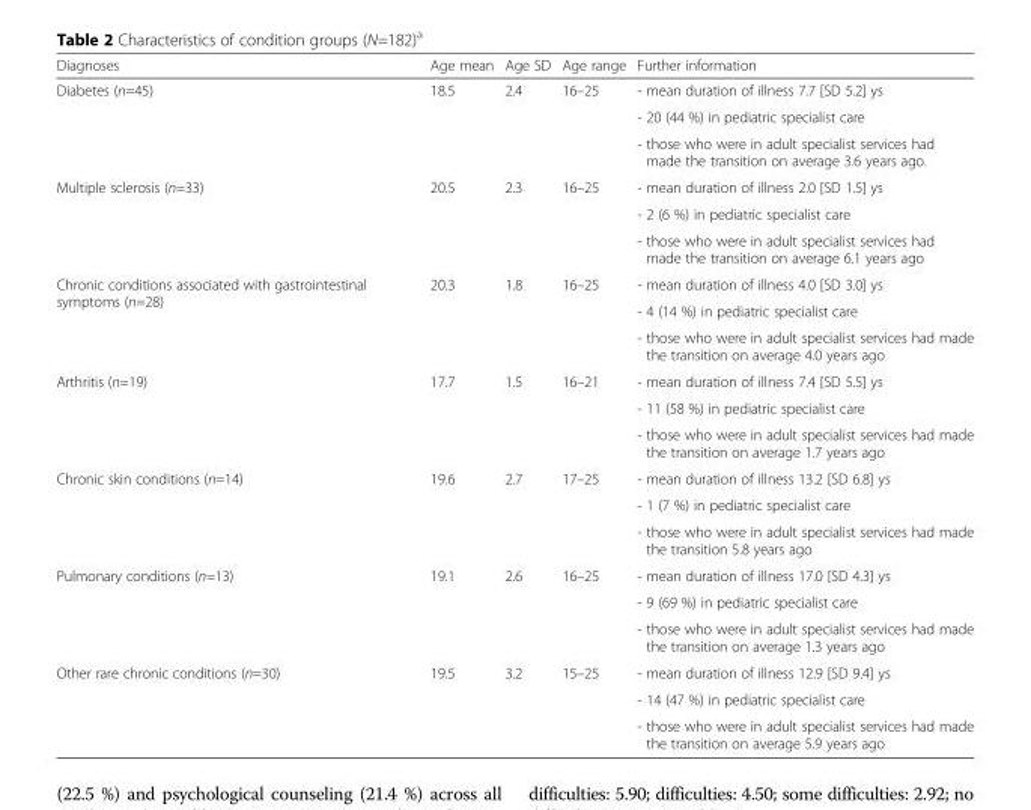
<table><thead><tr><td>Diagnoses</td><td>Age mean</td><td>Age SD</td><td>Age range</td><td>Further information</td></tr></thead><tbody><tr><td rowspan="3">Diabetes (n=45)</td><td rowspan="3">18.5</td><td rowspan="3">2.4</td><td rowspan="3">16–25</td><td>- mean duration of illness 7.7 [SD 5.2] ys</td></tr><tr><td>- 20 (44 %) in pediatric specialist care</td></tr><tr><td>- those who were in adult specialist services had made the transition on average 3.6 years ago.</td></tr><tr><td rowspan="3">Multiple sclerosis (n=33)</td><td rowspan="3">20.5</td><td rowspan="3">2.3</td><td rowspan="3">16–25</td><td>- mean duration of illness 2.0 [SD 1.5] ys</td></tr><tr><td>- 2 (6 %) in pediatric specialist care</td></tr><tr><td>- those who were in adult specialist services had made the transition on average 6.1 years ago</td></tr><tr><td rowspan="3">Chronic conditions associated with gastrointestinal symptoms (n=28)</td><td rowspan="3">20.3</td><td rowspan="3">1.8</td><td rowspan="3">16–25</td><td>- mean duration of illness 4.0 [SD 3.0] ys</td></tr><tr><td>- 4 (14 %) in pediatric specialist care</td></tr><tr><td>- those who were in adult specialist services had made the transition on average 4.0 years ago</td></tr><tr><td rowspan="3">Arthritis (n=19)</td><td rowspan="3">17.7</td><td rowspan="3">1.5</td><td rowspan="3">16–21</td><td>- mean duration of illness 7.4 [SD 5.5] ys</td></tr><tr><td>- 11 (58 %) in pediatric specialist care</td></tr><tr><td>- those who were in adult specialist services had made the transition on average 1.7 years ago</td></tr><tr><td rowspan="3">Chronic skin conditions (n=14)</td><td rowspan="3">19.6</td><td rowspan="3">2.7</td><td rowspan="3">17–25</td><td>- mean duration of illness 13.2 [SD 6.8] ys</td></tr><tr><td>- 1 (7 %) in pediatric specialist care</td></tr><tr><td>- those who were in adult specialist services had made the transition 5.8 years ago</td></tr><tr><td rowspan="3">Pulmonary conditions (n=13)</td><td rowspan="3">19.1</td><td rowspan="3">2.6</td><td rowspan="3">16–25</td><td>- mean duration of illness 17.0 [SD 4.3] ys</td></tr><tr><td>- 9 (69 %) in pediatric specialist care</td></tr><tr><td>- those who were in adult specialist services had made the transition on average 1.3 years ago</td></tr><tr><td rowspan="3">Other rare chronic conditions (n=30)</td><td rowspan="3">19.5</td><td rowspan="3">3.2</td><td rowspan="3">15–25</td><td>- mean duration of illness 12.9 [SD 9.4] ys</td></tr><tr><td>- 14 (47 %) in pediatric specialist care</td></tr><tr><td>- those who were in adult specialist services had made the transition on average 5.9 years ago</td></tr></tbody></table>